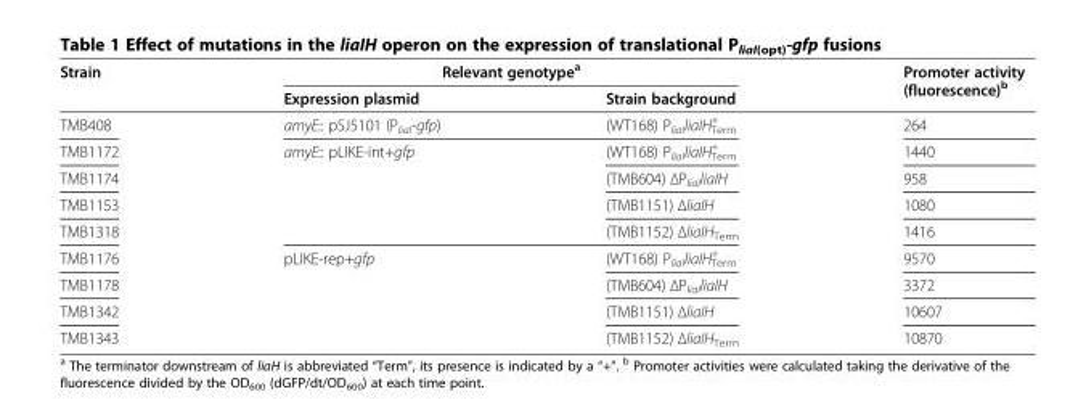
<table><thead><tr><td rowspan="2">Strain</td><td colspan="2">Relevant genotype<sup>a</sup></td><td rowspan="2">Promoter activity (fluorescence)<sup>b</sup></td></tr><tr><td>Expression plasmid</td><td>Strain background</td></tr></thead><tbody><tr><td>TMB408</td><td>amyE:: pSJ5101 (P<sub>liaI</sub>-gfp)</td><td>(WT168) P<sub>liaI</sub>liaIH<sub>Term</sub> <sup>+</sup></td><td>264</td></tr><tr><td>TMB1172</td><td rowspan="4">amyE:: pLIKE-int+gfp</td><td>(WT168) P<sub>liaI</sub>liaIH<sub>Term</sub> <sup>+</sup></td><td>1440</td></tr><tr><td>TMB1174</td><td>(TMB604) ΔPliaIliaIH</td><td>958</td></tr><tr><td>TMB1153</td><td>(TMB1151) ΔliaIH</td><td>1080</td></tr><tr><td>TMB1318</td><td>(TMB1152) ΔliaIHTerm</td><td>1416</td></tr><tr><td>TMB1176</td><td rowspan="4">pLIKE-rep+gfp</td><td>(WT168) P<sub>liaI</sub>liaIH<sub>Term</sub> <sup>+</sup></td><td>9570</td></tr><tr><td>TMB1178</td><td>(TMB604) ΔPliaIliaIH</td><td>3372</td></tr><tr><td>TMB1342</td><td>(TMB1151) ΔliaIH</td><td>10607</td></tr><tr><td>TMB1343</td><td>(TMB1152) ΔliaIHTerm</td><td>10870</td></tr></tbody></table>